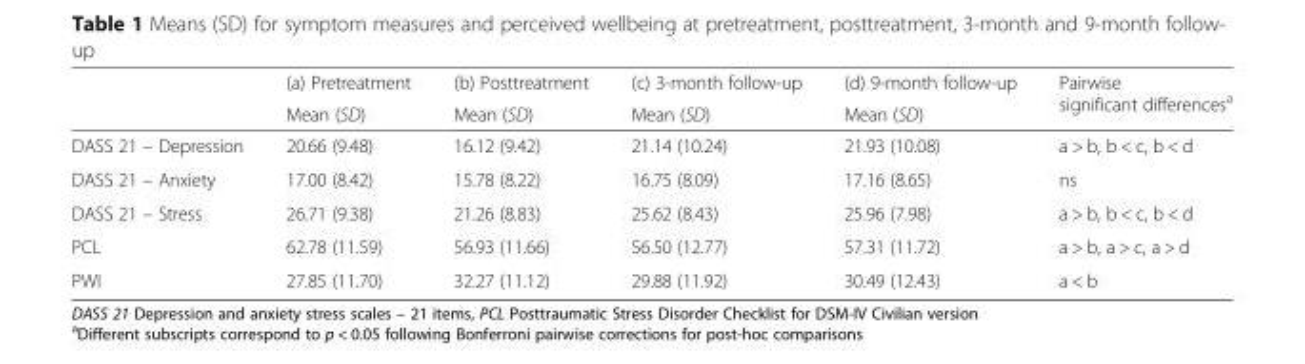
<table><thead><tr><td rowspan="2"></td><td rowspan="2">(a) Pretreatment Mean (SD)</td><td rowspan="2">(b) Posttreatment Mean (SD)</td><td rowspan="2">(c) 3-month follow-up Mean (SD)</td><td rowspan="2">(d) 9-month follow-up Mean (SD)</td><td rowspan="2">Pairwise significant differences<sup>a</sup></td></tr><tr></tr></thead><tbody><tr><td>DASS 21 – Depression</td><td>20.66 (9.48)</td><td>16.12 (9.42)</td><td>21.14 (10.24)</td><td>21.93 (10.08)</td><td>a &gt; b, b &lt; c, b &lt; d</td></tr><tr><td>DASS 21 – Anxiety</td><td>17.00 (8.42)</td><td>15.78 (8.22)</td><td>16.75 (8.09)</td><td>17.16 (8.65)</td><td>ns</td></tr><tr><td>DASS 21 – Stress</td><td>26.71 (9.38)</td><td>21.26 (8.83)</td><td>25.62 (8.43)</td><td>25.96 (7.98)</td><td>a &gt; b, b &lt; c, b &lt; d</td></tr><tr><td>PCL</td><td>62.78 (11.59)</td><td>56.93 (11.66)</td><td>56.50 (12.77)</td><td>57.31 (11.72)</td><td>a &gt; b, a &gt; c, a &gt; d</td></tr><tr><td>PWI</td><td>27.85 (11.70)</td><td>32.27 (11.12)</td><td>29.88 (11.92)</td><td>30.49 (12.43)</td><td>a &lt; b</td></tr></tbody></table>